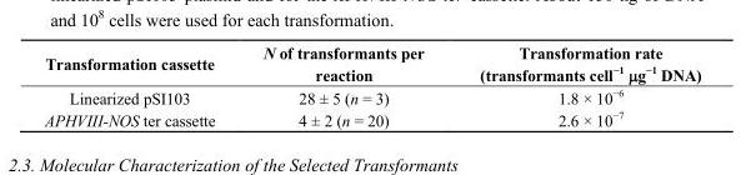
<table><thead><tr><td>Transformation cassette</td><td>N of transformants per reaction</td><td>Transformation rate (transformants cell<sup>−1</sup> μg<sup>−1</sup> DNA)</td></tr></thead><tbody><tr><td>Linearized pSI103</td><td>28 ± 5 (n = 3)</td><td>1.8 × 10<sup>−6</sup></td></tr><tr><td>APHVIII-NOS ter cassette</td><td>4 ± 2 (n = 20)</td><td>2.6 × 10<sup>−7</sup></td></tr></tbody></table>